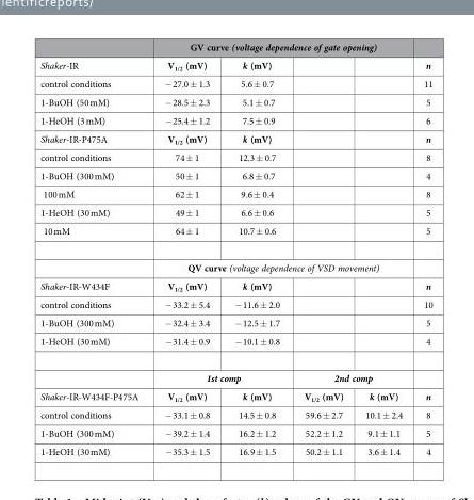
<table><thead><tr><td rowspan="2">Shaker-IR</td><td colspan="4">GV curve (voltage dependence of gate opening)</td><td rowspan="2">n</td></tr><tr><td>V<sub>1/2</sub> (mV)</td><td>k (mV)</td><td></td><td></td></tr></thead><tbody><tr><td>control conditions</td><td>− 27.0 ± 1.3</td><td>5.6 ± 0.7</td><td></td><td></td><td>11</td></tr><tr><td>1-BuOH (50 mM)</td><td>− 28.5 ± 2.3</td><td>5.1 ± 0.7</td><td></td><td></td><td>5</td></tr><tr><td>1-HeOH (3 mM)</td><td>− 25.4 ± 1.2</td><td>7.5 ± 0.9</td><td></td><td></td><td>6</td></tr><tr><td>Shaker-IR-P475A</td><td>V<sub>1/2</sub> (mV)</td><td>k (mV)</td><td></td><td></td><td>n</td></tr><tr><td>control conditions</td><td>74 ± 1</td><td>12.3 ± 0.7</td><td></td><td></td><td>8</td></tr><tr><td>1-BuOH (300 mM)</td><td>50 ± 1</td><td>6.8 ± 0.7</td><td></td><td></td><td>4</td></tr><tr><td>100 mM</td><td>62 ± 1</td><td>9.6 ± 0.4</td><td></td><td></td><td>8</td></tr><tr><td>1-HeOH (30 mM)</td><td>49 ± 1</td><td>6.6 ± 0.6</td><td></td><td></td><td>5</td></tr><tr><td rowspan="2">10 mM</td><td>64 ± 1</td><td>10.7 ± 0.6</td><td></td><td></td><td>5</td></tr><tr><td colspan="4">QV curve (voltage dependence of VSD movement)</td><td></td></tr><tr><td>Shaker-IR-W434F</td><td>V<sub>1/2</sub> (mV)</td><td>k (mV)</td><td></td><td></td><td>n</td></tr><tr><td>control conditions</td><td>− 33.2 ± 5.4</td><td>− 11.6 ± 2.0</td><td></td><td></td><td>10</td></tr><tr><td>1-BuOH (300 mM)</td><td>− 32.4 ± 3.4</td><td>− 12.5 ± 1.7</td><td></td><td></td><td>5</td></tr><tr><td rowspan="2">1-HeOH (30 mM)</td><td>− 31.4 ± 0.9</td><td>− 10.1 ± 0.8</td><td></td><td></td><td>4</td></tr><tr><td colspan="2">1st comp</td><td colspan="2">2nd comp</td><td></td></tr><tr><td>Shaker-IR-W434F-P475A</td><td>V<sub>1/2</sub> (mV)</td><td>k (mV)</td><td>V<sub>1/2</sub> (mV)</td><td>k (mV)</td><td>n</td></tr><tr><td>control conditions</td><td>− 33.1 ± 0.8</td><td>14.5 ± 0.8</td><td>59.6 ± 2.7</td><td>10.1 ± 2.4</td><td>8</td></tr><tr><td>1-BuOH (300 mM)</td><td>− 39.2 ± 1.4</td><td>16.2 ± 1.2</td><td>52.2 ± 1.2</td><td>9.1 ± 1.1</td><td>5</td></tr><tr><td>1-HeOH (30 mM)</td><td>− 35.3 ± 1.5</td><td>16.9 ± 1.5</td><td>50.2 ± 1.1</td><td>3.6 ± 1.4</td><td>4</td></tr></tbody></table>